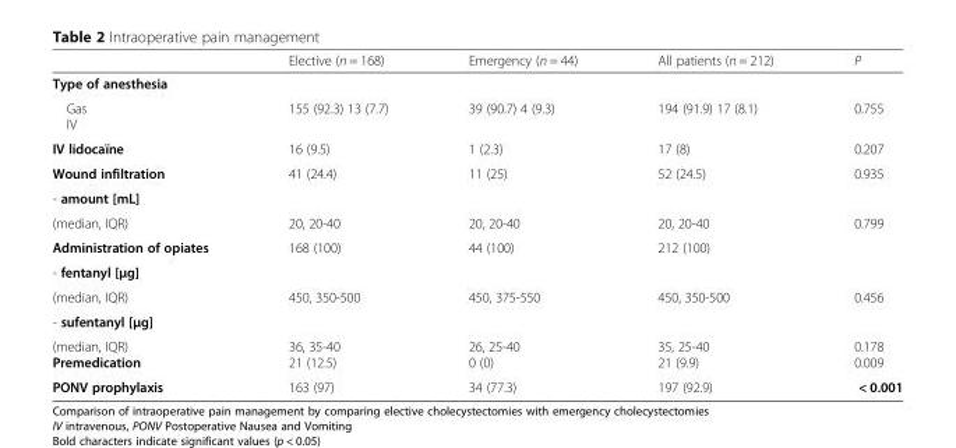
<table><thead><tr><td></td><td>Elective (n = 168)</td><td>Emergency (n = 44)</td><td>All patients (n = 212)</td><td>P</td></tr></thead><tbody><tr><td colspan="5">Type of anesthesia</td></tr><tr><td>Gas IV</td><td>155 (92.3) 13 (7.7)</td><td>39 (90.7) 4 (9.3)</td><td>194 (91.9) 17 (8.1)</td><td>0.755</td></tr><tr><td>IV lidocaïne</td><td>16 (9.5)</td><td>1 (2.3)</td><td>17 (8)</td><td>0.207</td></tr><tr><td>Wound infiltration</td><td>41 (24.4)</td><td>11 (25)</td><td>52 (24.5)</td><td>0.935</td></tr><tr><td colspan="5">- amount [mL]</td></tr><tr><td>(median, IQR)</td><td>20, 20-40</td><td>20, 20-40</td><td>20, 20-40</td><td>0.799</td></tr><tr><td>Administration of opiates</td><td>168 (100)</td><td>44 (100)</td><td>212 (100)</td><td></td></tr><tr><td colspan="5">- fentanyl [μg]</td></tr><tr><td>(median, IQR)</td><td>450, 350-500</td><td>450, 375-550</td><td>450, 350-500</td><td>0.456</td></tr><tr><td colspan="5">- sufentanyl [μg]</td></tr><tr><td>(median, IQR) Premedication</td><td>36, 35-40 21 (12.5)</td><td>26, 25-40 0 (0)</td><td>35, 25-40 21 (9.9)</td><td>0.178 0.009</td></tr><tr><td>PONV prophylaxis</td><td>163 (97)</td><td>34 (77.3)</td><td>197 (92.9)</td><td>&lt; 0.001</td></tr></tbody></table>